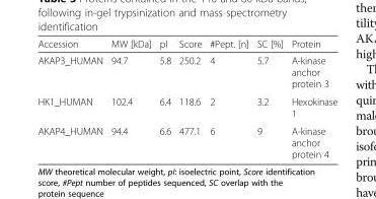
<table><thead><tr><td>Accession</td><td>MW [kDa]</td><td>pI</td><td>Score</td><td>#Pept. [n]</td><td>SC [%]</td><td>Protein</td></tr></thead><tbody><tr><td>AKAP3_HUMAN</td><td>94.7</td><td>5.8</td><td>250.2</td><td>4</td><td>5.7</td><td>A-kinase anchor protein 3</td></tr><tr><td>HK1_HUMAN</td><td>102.4</td><td>6.4</td><td>118.6</td><td>2</td><td>3.2</td><td>Hexokinase 1</td></tr><tr><td>AKAP4_HUMAN</td><td>94.4</td><td>6.6</td><td>477.1</td><td>6</td><td>9</td><td>A-kinase anchor protein 4</td></tr></tbody></table>